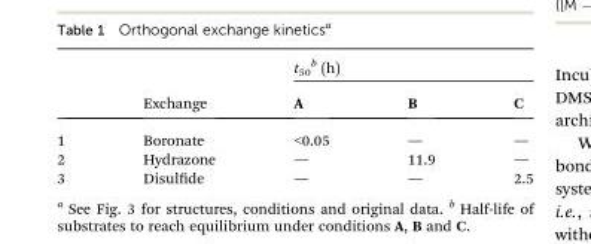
<table><thead><tr><td rowspan="2"></td><td rowspan="2">Exchange</td><td colspan="3">t<sub>50</sub> b (h)</td></tr><tr><td>A</td><td>B</td><td>C</td></tr></thead><tbody><tr><td>1</td><td>Boronate</td><td>&lt;0.05</td><td>—</td><td>—</td></tr><tr><td>2</td><td>Hydrazone</td><td>—</td><td>11.9</td><td>—</td></tr><tr><td>3</td><td>Disulde</td><td>—</td><td>—</td><td>2.5</td></tr></tbody></table>